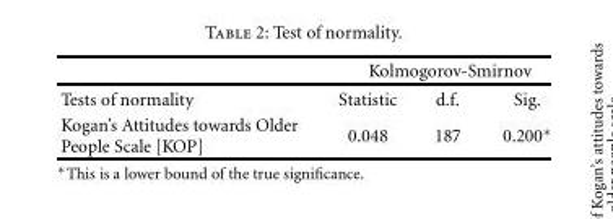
<table><thead><tr><td rowspan="2">Tests of normality</td><td colspan="3">Kolmogorov-Smirnov</td></tr><tr><td>Statistic</td><td>d.f.</td><td>Sig.</td></tr></thead><tbody><tr><td>Kogan’s Attitudes towards Older People Scale [KOP]</td><td>0.048</td><td>187</td><td>0.200∗</td></tr></tbody></table>